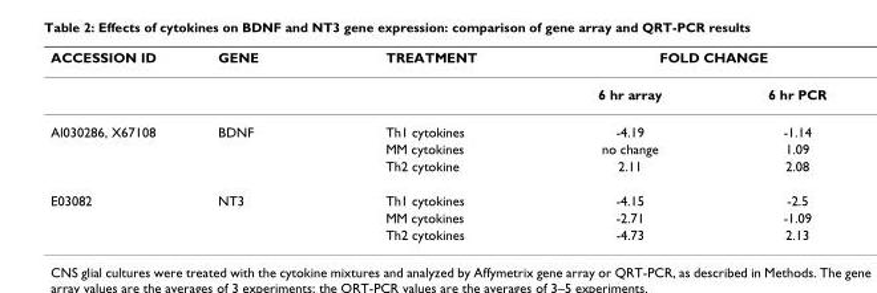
<table><thead><tr><td rowspan="2">ACCESSION ID</td><td rowspan="2">GENE</td><td rowspan="2">TREATMENT</td><td colspan="2">FOLD CHANGE</td></tr><tr><td>6 hr array</td><td>6 hr PCR</td></tr></thead><tbody><tr><td rowspan="3">Al030286, X67108</td><td>BDNF</td><td>Th1 cytokines</td><td>-4.19</td><td>-1.14</td></tr><tr><td></td><td>MM cytokines</td><td>no change</td><td>1.09</td></tr><tr><td></td><td>Th2 cytokine</td><td>2.11</td><td>2.08</td></tr><tr><td rowspan="3">E03082</td><td>NT3</td><td>Th1 cytokines</td><td>-4.15</td><td>-2.5</td></tr><tr><td></td><td>MM cytokines</td><td>-2.71</td><td>-1.09</td></tr><tr><td></td><td>Th2 cytokines</td><td>-4.73</td><td>2.13</td></tr></tbody></table>